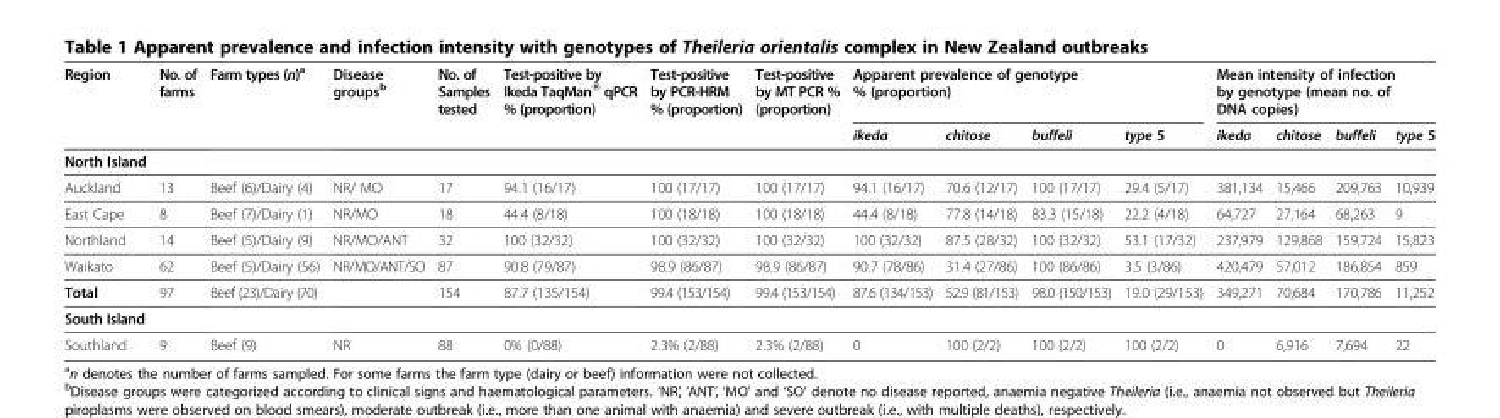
<table><thead><tr><td rowspan="2">Region</td><td rowspan="2">No. of farms</td><td rowspan="2">Farm types (n)<sup>a</sup></td><td rowspan="2">Disease groups<sup>b</sup></td><td rowspan="2">No. of Samples tested</td><td rowspan="2">Test-positive by Ikeda TaqMan® qPCR % (proportion)</td><td rowspan="2">Test-positive by PCR-HRM % (proportion)</td><td rowspan="2">Test-positive by MT PCR % (proportion)</td><td colspan="4">Apparent prevalence of genotype % (proportion)</td><td colspan="4">Mean intensity of infection by genotype (mean no. of DNA copies)</td></tr><tr><td>ikeda</td><td>chitose</td><td>buffeli</td><td>type 5</td><td>ikeda</td><td>chitose</td><td>buffeli</td><td>type 5</td></tr></thead><tbody><tr><td colspan="16">North Island</td></tr><tr><td>Auckland</td><td>13</td><td>Beef (6)/Dairy (4)</td><td>NR/ MO</td><td>17</td><td>94.1 (16/17)</td><td>100 (17/17)</td><td>100 (17/17)</td><td>94.1 (16/17)</td><td>70.6 (12/17)</td><td>100 (17/17)</td><td>29.4 (5/17)</td><td>381,134</td><td>15,466</td><td>209,763</td><td>10,939</td></tr><tr><td>East Cape</td><td>8</td><td>Beef (7)/Dairy (1)</td><td>NR/MO</td><td>18</td><td>44.4 (8/18)</td><td>100 (18/18)</td><td>100 (18/18)</td><td>44.4 (8/18)</td><td>77.8 (14/18)</td><td>83.3 (15/18)</td><td>22.2 (4/18)</td><td>64,727</td><td>27,164</td><td>68,263</td><td>9</td></tr><tr><td>Northland</td><td>14</td><td>Beef (5)/Dairy (9)</td><td>NR/MO/ANT</td><td>32</td><td>100 (32/32)</td><td>100 (32/32)</td><td>100 (32/32)</td><td>100 (32/32)</td><td>87.5 (28/32)</td><td>100 (32/32)</td><td>53.1 (17/32)</td><td>237,979</td><td>129,868</td><td>159,724</td><td>15,823</td></tr><tr><td>Waikato</td><td>62</td><td>Beef (5)/Dairy (56)</td><td>NR/MO/ANT/SO</td><td>87</td><td>90.8 (79/87)</td><td>98.9 (86/87)</td><td>98.9 (86/87)</td><td>90.7 (78/86)</td><td>31.4 (27/86)</td><td>100 (86/86)</td><td>3.5 (3/86)</td><td>420,479</td><td>57,012</td><td>186,854</td><td>859</td></tr><tr><td>Total</td><td>97</td><td>Beef (23)/Dairy (70)</td><td></td><td>154</td><td>87.7 (135/154)</td><td>99.4 (153/154)</td><td>99.4 (153/154)</td><td>87.6 (134/153)</td><td>52.9 (81/153)</td><td>98.0 (150/153)</td><td>19.0 (29/153)</td><td>349,271</td><td>70,684</td><td>170,786</td><td>11,252</td></tr><tr><td colspan="16">South Island</td></tr><tr><td>Southland</td><td>9</td><td>Beef (9)</td><td>NR</td><td>88</td><td>0% (0/88)</td><td>2.3% (2/88)</td><td>2.3% (2/88)</td><td>0</td><td>100 (2/2)</td><td>100 (2/2)</td><td>100 (2/2)</td><td>0</td><td>6,916</td><td>7,694</td><td>22</td></tr></tbody></table>